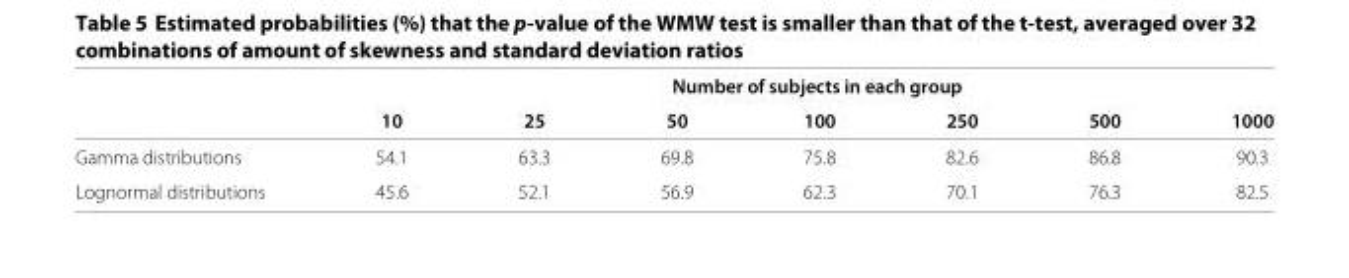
<table><thead><tr><td rowspan="2"></td><td colspan="7">Number of subjects in each group</td></tr><tr><td>10</td><td>25</td><td>50</td><td>100</td><td>250</td><td>500</td><td>1000</td></tr></thead><tbody><tr><td>Gamma distributions</td><td>54.1</td><td>63.3</td><td>69.8</td><td>75.8</td><td>82.6</td><td>86.8</td><td>90.3</td></tr><tr><td>Lognormal distributions</td><td>45.6</td><td>52.1</td><td>56.9</td><td>62.3</td><td>70.1</td><td>76.3</td><td>82.5</td></tr></tbody></table>